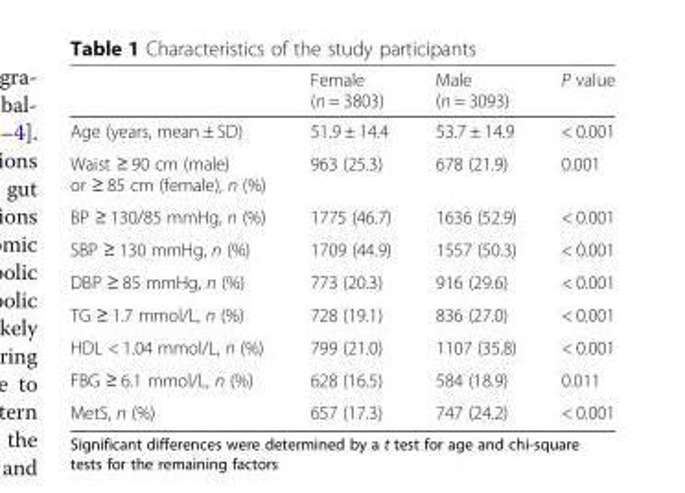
<table><thead><tr><td></td><td>Female (n = 3803)</td><td>Male (n = 3093)</td><td>P value</td></tr></thead><tbody><tr><td>Age (years, mean ± SD)</td><td>51.9 ± 14.4</td><td>53.7 ± 14.9</td><td>&lt; 0.001</td></tr><tr><td>Waist ≥ 90 cm (male) or ≥ 85 cm (female), n (%)</td><td>963 (25.3)</td><td>678 (21.9)</td><td>0.001</td></tr><tr><td>BP ≥ 130/85 mmHg, n (%)</td><td>1775 (46.7)</td><td>1636 (52.9)</td><td>&lt; 0.001</td></tr><tr><td>SBP ≥ 130 mmHg, n (%)</td><td>1709 (44.9)</td><td>1557 (50.3)</td><td>&lt; 0.001</td></tr><tr><td>DBP ≥ 85 mmHg, n (%)</td><td>773 (20.3)</td><td>916 (29.6)</td><td>&lt; 0.001</td></tr><tr><td>TG ≥ 1.7 mmol/L, n (%)</td><td>728 (19.1)</td><td>836 (27.0)</td><td>&lt; 0.001</td></tr><tr><td>HDL &lt; 1.04 mmol/L, n (%)</td><td>799 (21.0)</td><td>1107 (35.8)</td><td>&lt; 0.001</td></tr><tr><td>FBG ≥ 6.1 mmol/L, n (%)</td><td>628 (16.5)</td><td>584 (18.9)</td><td>0.011</td></tr><tr><td>MetS, n (%)</td><td>657 (17.3)</td><td>747 (24.2)</td><td>&lt; 0.001</td></tr></tbody></table>